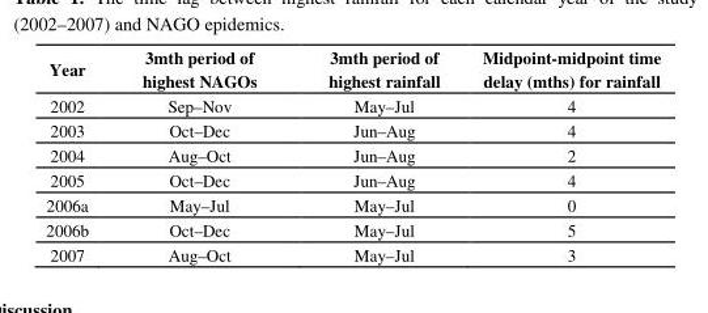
<table><thead><tr><td>Year</td><td>3mth period of highest NAGOs</td><td>3mth period of highest rainfall</td><td>Midpoint-midpoint time delay (mths) for rainfall</td></tr></thead><tbody><tr><td>2002</td><td>Sep–Nov</td><td>May–Jul</td><td>4</td></tr><tr><td>2003</td><td>Oct–Dec</td><td>Jun–Aug</td><td>4</td></tr><tr><td>2004</td><td>Aug–Oct</td><td>Jun–Aug</td><td>2</td></tr><tr><td>2005</td><td>Oct–Dec</td><td>Jun–Aug</td><td>4</td></tr><tr><td>2006a</td><td>May–Jul</td><td>May–Jul</td><td>0</td></tr><tr><td>2006b</td><td>Oct–Dec</td><td>May–Jul</td><td>5</td></tr><tr><td>2007</td><td>Aug–Oct</td><td>May–Jul</td><td>3</td></tr></tbody></table>